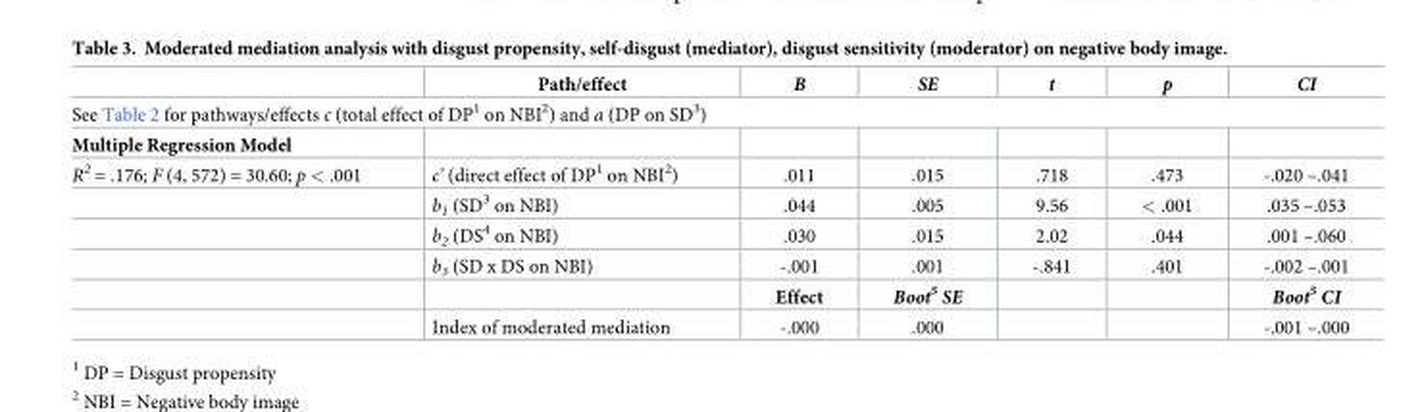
<table><thead><tr><td></td><td>Path/effect</td><td>B</td><td>SE</td><td>t</td><td>p</td><td>CI</td></tr></thead><tbody><tr><td colspan="7">See Table 2 for pathways/effects c (total effect of DP<sup>1</sup> on NBI<sup>2</sup>) and a (DP on SD<sup>3</sup>)</td></tr><tr><td colspan="7">Multiple Regression Model</td></tr><tr><td rowspan="6">R<sup>2</sup> = .176; F (4, 572) = 30.60; p &lt; .001</td><td>c’ (direct effect of DP<sup>1</sup> on NBI<sup>2</sup>)</td><td>.011</td><td>.015</td><td>.718</td><td>.473</td><td>-.020 –.041</td></tr><tr><td>b<sub>1</sub> (SD<sup>3</sup> on NBI)</td><td>.044</td><td>.005</td><td>9.56</td><td>&lt; .001</td><td>.035 –.053</td></tr><tr><td>b<sub>2</sub> (DS<sup>4</sup> on NBI)</td><td>.030</td><td>.015</td><td>2.02</td><td>.044</td><td>.001 –.060</td></tr><tr><td>b<sub>3</sub> (SD x DS on NBI)</td><td>-.001</td><td>.001</td><td>-.841</td><td>.401</td><td>-.002 –.001</td></tr><tr><td></td><td>Effect</td><td>Boot<sup>5</sup> SE</td><td></td><td></td><td>Boot<sup>5</sup> CI</td></tr><tr><td>Index of moderated mediation</td><td>-.000</td><td>.000</td><td></td><td></td><td>-.001 –.000</td></tr></tbody></table>